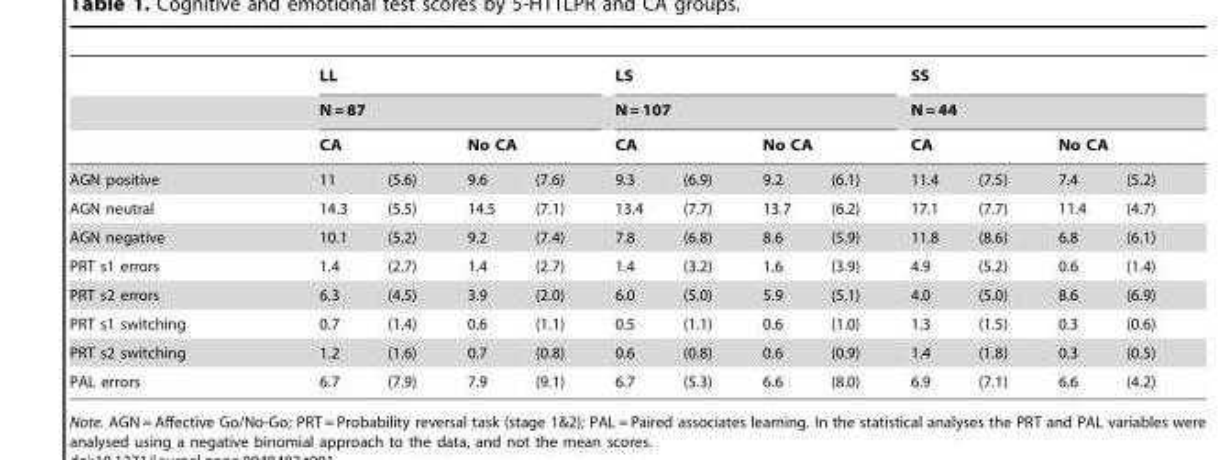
<table><thead><tr><td rowspan="4">AGN positive</td><td rowspan="2" colspan="4">LL N = 87</td><td rowspan="2" colspan="4">LS N = 107</td><td rowspan="2" colspan="4">SS N = 44</td></tr><tr></tr><tr><td colspan="2">CA</td><td colspan="2">No CA</td><td colspan="2">CA</td><td colspan="2">No CA</td><td colspan="2">CA</td><td colspan="2">No CA</td></tr><tr><td>11</td><td>(5.6)</td><td>9.6</td><td>(7.6)</td><td>9.3</td><td>(6.9)</td><td>9.2</td><td>(6.1)</td><td>11.4</td><td>(7.5)</td><td>7.4</td><td>(5.2)</td></tr></thead><tbody><tr><td>AGN neutral</td><td>14.3</td><td>(5.5)</td><td>14.5</td><td>(7.1)</td><td>13.4</td><td>(7.7)</td><td>13.7</td><td>(6.2)</td><td>17.1</td><td>(7.7)</td><td>11.4</td><td>(4.7)</td></tr><tr><td>AGN negative</td><td>10.1</td><td>(5.2)</td><td>9.2</td><td>(7.4)</td><td>7.8</td><td>(6.8)</td><td>8.6</td><td>(5.9)</td><td>11.8</td><td>(8.6)</td><td>6.8</td><td>(6.1)</td></tr><tr><td>PRT s1 errors</td><td>1.4</td><td>(2.7)</td><td>1.4</td><td>(2.7)</td><td>1.4</td><td>(3.2)</td><td>1.6</td><td>(3.9)</td><td>4.9</td><td>(5.2)</td><td>0.6</td><td>(1.4)</td></tr><tr><td>PRT s2 errors</td><td>6.3</td><td>(4.5)</td><td>3.9</td><td>(2.0)</td><td>6.0</td><td>(5.0)</td><td>5.9</td><td>(5.1)</td><td>4.0</td><td>(5.0)</td><td>8.6</td><td>(6.9)</td></tr><tr><td>PRT s1 switching</td><td>0.7</td><td>(1.4)</td><td>0.6</td><td>(1.1)</td><td>0.5</td><td>(1.1)</td><td>0.6</td><td>(1.0)</td><td>1.3</td><td>(1.5)</td><td>0.3</td><td>(0.6)</td></tr><tr><td>PRT s2 switching</td><td>1.2</td><td>(1.6)</td><td>0.7</td><td>(0.8)</td><td>0.6</td><td>(0.8)</td><td>0.6</td><td>(0.9)</td><td>1.4</td><td>(1.8)</td><td>0.3</td><td>(0.5)</td></tr><tr><td>PAL errors</td><td>6.7</td><td>(7.9)</td><td>7.9</td><td>(9.1)</td><td>6.7</td><td>(5.3)</td><td>6.6</td><td>(8.0)</td><td>6.9</td><td>(7.1)</td><td>6.6</td><td>(4.2)</td></tr></tbody></table>